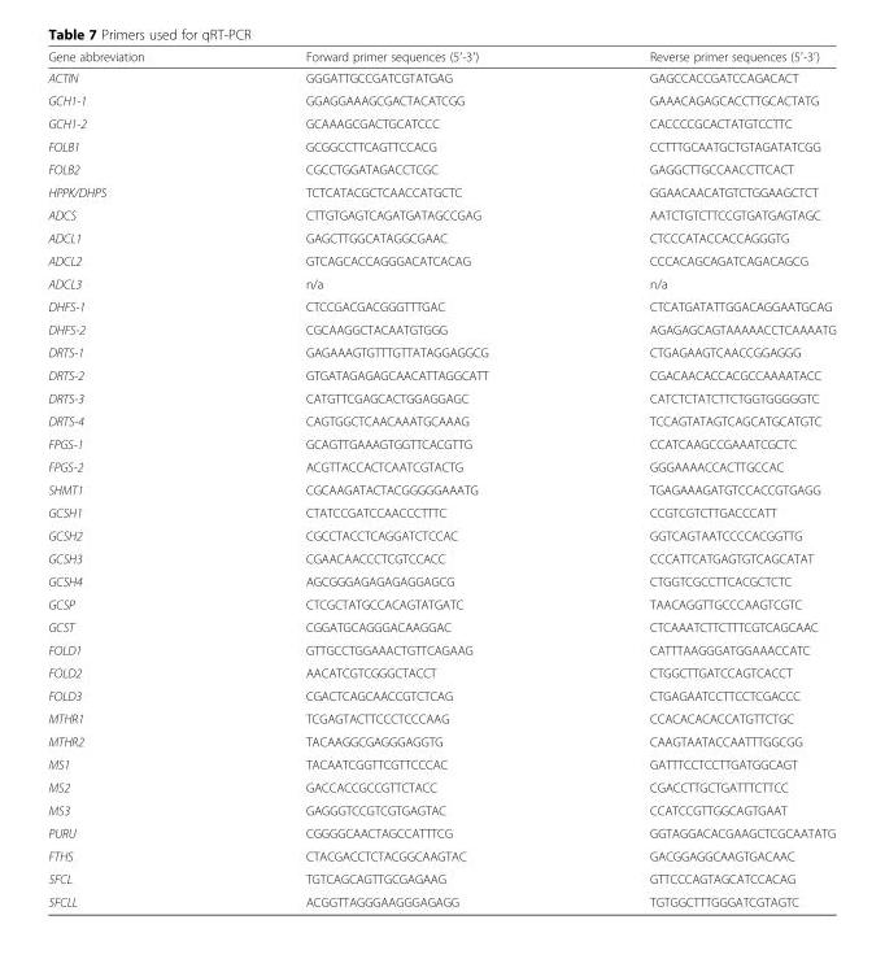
<table><thead><tr><td>Gene abbreviation</td><td>Forward primer sequences (5′-3′)</td><td>Reverse primer sequences (5′-3′)</td></tr></thead><tbody><tr><td>ACTIN</td><td>GGGATTGCCGATCGTATGAG</td><td>GAGCCACCGATCCAGACACT</td></tr><tr><td>GCH1-1</td><td>GGAGGAAAGCGACTACATCGG</td><td>GAAACAGAGCACCTTGCACTATG</td></tr><tr><td>GCH1-2</td><td>GCAAAGCGACTGCATCCC</td><td>CACCCCGCACTATGTCCTTC</td></tr><tr><td>FOLB1</td><td>GCGGCCTTCAGTTCCACG</td><td>CCTTTGCAATGCTGTAGATATCGG</td></tr><tr><td>FOLB2</td><td>CGCCTGGATAGACCTCGC</td><td>GAGGCTTGCCAACCTTCACT</td></tr><tr><td>HPPK/DHPS</td><td>TCTCATACGCTCAACCATGCTC</td><td>GGAACAACATGTCTGGAAGCTCT</td></tr><tr><td>ADCS</td><td>CTTGTGAGTCAGATGATAGCCGAG</td><td>AATCTGTCTTCCGTGATGAGTAGC</td></tr><tr><td>ADCL1</td><td>GAGCTTGGCATAGGCGAAC</td><td>CTCCCATACCACCAGGGTG</td></tr><tr><td>ADCL2</td><td>GTCAGCACCAGGGACATCACAG</td><td>CCCACAGCAGATCAGACAGCG</td></tr><tr><td>ADCL3</td><td>n/a</td><td>n/a</td></tr><tr><td>DHFS-1</td><td>CTCCGACGACGGGTTTGAC</td><td>CTCATGATATTGGACAGGAATGCAG</td></tr><tr><td>DHFS-2</td><td>CGCAAGGCTACAATGTGGG</td><td>AGAGAGCAGTAAAAACCTCAAAATG</td></tr><tr><td>DRTS-1</td><td>GAGAAAGTGTTTGTTATAGGAGGCG</td><td>CTGAGAAGTCAACCGGAGGG</td></tr><tr><td>DRTS-2</td><td>GTGATAGAGAGCAACATTAGGCATT</td><td>CGACAACACCACGCCAAAATACC</td></tr><tr><td>DRTS-3</td><td>CATGTTCGAGCACTGGAGGAGC</td><td>CATCTCTATCTTCTGGTGGGGGTC</td></tr><tr><td>DRTS-4</td><td>CAGTGGCTCAACAAATGCAAAG</td><td>TCCAGTATAGTCAGCATGCATGTC</td></tr><tr><td>FPGS-1</td><td>GCAGTTGAAAGTGGTTCACGTTG</td><td>CCATCAAGCCGAAATCGCTC</td></tr><tr><td>FPGS-2</td><td>ACGTTACCACTCAATCGTACTG</td><td>GGGAAAACCACTTGCCAC</td></tr><tr><td>SHMT1</td><td>CGCAAGATACTACGGGGGAAATG</td><td>TGAGAAAGATGTCCACCGTGAGG</td></tr><tr><td>GCSH1</td><td>CTATCCGATCCAACCCTTTC</td><td>CCGTCGTCTTGACCCATT</td></tr><tr><td>GCSH2</td><td>CGCCTACCTCAGGATCTCCAC</td><td>GGTCAGTAATCCCCACGGTTG</td></tr><tr><td>GCSH3</td><td>CGAACAACCCTCGTCCACC</td><td>CCCATTCATGAGTGTCAGCATAT</td></tr><tr><td>GCSH4</td><td>AGCGGGAGAGAGAGGAGCG</td><td>CTGGTCGCCTTCACGCTCTC</td></tr><tr><td>GCSP</td><td>CTCGCTATGCCACAGTATGATC</td><td>TAACAGGTTGCCCAAGTCGTC</td></tr><tr><td>GCST</td><td>CGGATGCAGGGACAAGGAC</td><td>CTCAAATCTTCTTTCGTCAGCAAC</td></tr><tr><td>FOLD1</td><td>GTTGCCTGGAAACTGTTCAGAAG</td><td>CATTTAAGGGATGGAAACCATC</td></tr><tr><td>FOLD2</td><td>AACATCGTCGGGCTACCT</td><td>CTGGCTTGATCCAGTCACCT</td></tr><tr><td>FOLD3</td><td>CGACTCAGCAACCGTCTCAG</td><td>CTGAGAATCCTTCCTCGACCC</td></tr><tr><td>MTHR1</td><td>TCGAGTACTTCCCTCCCAAG</td><td>CCACACACACCATGTTCTGC</td></tr><tr><td>MTHR2</td><td>TACAAGGCGAGGGAGGTG</td><td>CAAGTAATACCAATTTGGCGG</td></tr><tr><td>MS1</td><td>TACAATCGGTTCGTTCCCAC</td><td>GATTTCCTCCTTGATGGCAGT</td></tr><tr><td>MS2</td><td>GACCACCGCCGTTCTACC</td><td>CGACCTTGCTGATTTCTTCC</td></tr><tr><td>MS3</td><td>GAGGGTCCGTCGTGAGTAC</td><td>CCATCCGTTGGCAGTGAAT</td></tr><tr><td>PURU</td><td>CGGGGCAACTAGCCATTTCG</td><td>GGTAGGACACGAAGCTCGCAATATG</td></tr><tr><td>FTHS</td><td>CTACGACCTCTACGGCAAGTAC</td><td>GACGGAGGCAAGTGACAAC</td></tr><tr><td>5FCL</td><td>TGTCAGCAGTTGCGAGAAG</td><td>GTTCCCAGTAGCATCCACAG</td></tr><tr><td>5FCLL</td><td>ACGGTTAGGGAAGGGAGAGG</td><td>TGTGGCTTTGGGATCGTAGTC</td></tr></tbody></table>